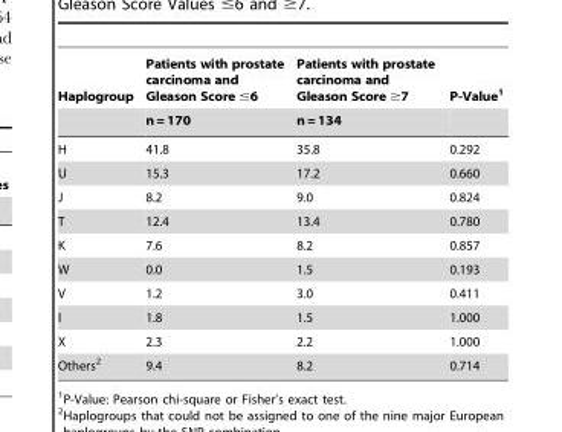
<table><thead><tr><td rowspan="2">Haplogroup</td><td rowspan="2">Patients with prostate carcinoma and Gleason Score ≤6 n = 170</td><td rowspan="2">Patients with prostate carcinoma and Gleason Score ≥7 n = 134</td><td rowspan="2">P-Value<sup>1</sup></td></tr><tr></tr></thead><tbody><tr><td>H</td><td>41.8</td><td>35.8</td><td>0.292</td></tr><tr><td>U</td><td>15.3</td><td>17.2</td><td>0.660</td></tr><tr><td>J</td><td>8.2</td><td>9.0</td><td>0.824</td></tr><tr><td>T</td><td>12.4</td><td>13.4</td><td>0.780</td></tr><tr><td>K</td><td>7.6</td><td>8.2</td><td>0.857</td></tr><tr><td>W</td><td>0.0</td><td>1.5</td><td>0.193</td></tr><tr><td>V</td><td>1.2</td><td>3.0</td><td>0.411</td></tr><tr><td>I</td><td>1.8</td><td>1.5</td><td>1.000</td></tr><tr><td>X</td><td>2.3</td><td>2.2</td><td>1.000</td></tr><tr><td>Others<sup>2</sup></td><td>9.4</td><td>8.2</td><td>0.714</td></tr></tbody></table>